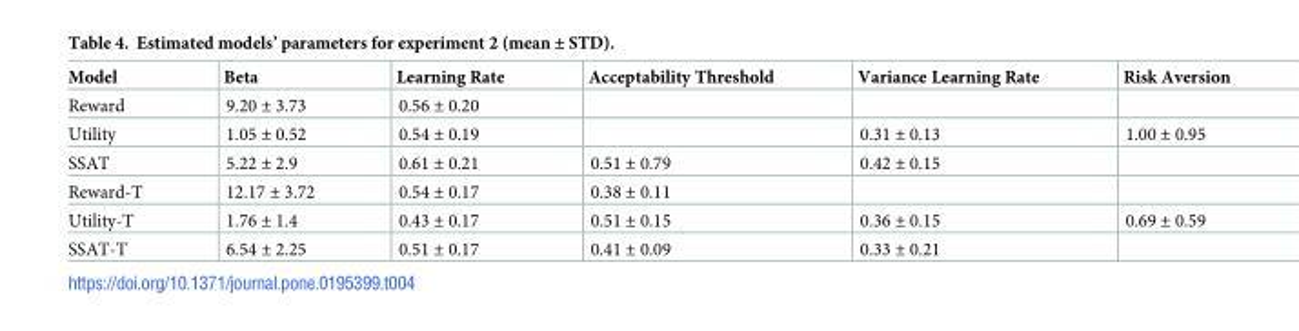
<table><thead><tr><td>Model</td><td>Beta</td><td>Learning Rate</td><td>Acceptability Threshold</td><td>Variance Learning Rate</td><td>Risk Aversion</td></tr></thead><tbody><tr><td>Reward</td><td>9.20 ± 3.73</td><td>0.56 ± 0.20</td><td></td><td></td><td></td></tr><tr><td>Utility</td><td>1.05 ± 0.52</td><td>0.54 ± 0.19</td><td></td><td>0.31 ± 0.13</td><td>1.00 ± 0.95</td></tr><tr><td>SSAT</td><td>5.22 ± 2.9</td><td>0.61 ± 0.21</td><td>0.51 ± 0.79</td><td>0.42 ± 0.15</td><td></td></tr><tr><td>Reward-T</td><td>12.17 ± 3.72</td><td>0.54 ± 0.17</td><td>0.38 ± 0.11</td><td></td><td></td></tr><tr><td>Utility-T</td><td>1.76 ± 1.4</td><td>0.43 ± 0.17</td><td>0.51 ± 0.15</td><td>0.36 ± 0.15</td><td>0.69 ± 0.59</td></tr><tr><td>SSAT-T</td><td>6.54 ± 2.25</td><td>0.51 ± 0.17</td><td>0.41 ± 0.09</td><td>0.33 ± 0.21</td><td></td></tr></tbody></table>